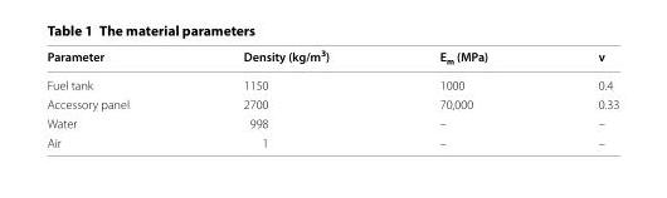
<table><thead><tr><td>Parameter</td><td>Density (kg/m<sup>3</sup>)</td><td>E<sub>m</sub> (MPa)</td><td>v</td></tr></thead><tbody><tr><td>Fuel tank</td><td>1150</td><td>1000</td><td>0.4</td></tr><tr><td>Accessory panel</td><td>2700</td><td>70,000</td><td>0.33</td></tr><tr><td>Water</td><td>998</td><td>–</td><td>–</td></tr><tr><td>Air</td><td>1</td><td>–</td><td>–</td></tr></tbody></table>